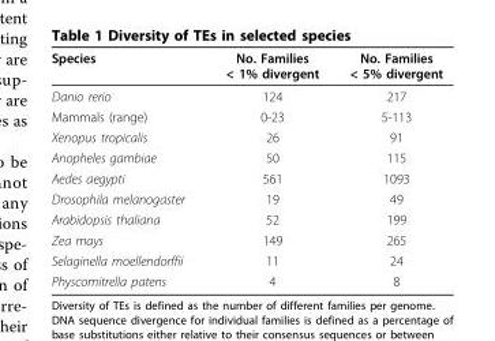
<table><thead><tr><td>Species</td><td>No. Families &lt; 1% divergent</td><td>No. Families &lt; 5% divergent</td></tr></thead><tbody><tr><td>Danio rerio</td><td>124</td><td>217</td></tr><tr><td>Mammals (range)</td><td>0-23</td><td>5-113</td></tr><tr><td>Xenopus tropicalis</td><td>26</td><td>91</td></tr><tr><td>Anopheles gambiae</td><td>50</td><td>115</td></tr><tr><td>Aedes aegypti</td><td>561</td><td>1093</td></tr><tr><td>Drosophila melanogaster</td><td>19</td><td>49</td></tr><tr><td>Arabidopsis thaliana</td><td>52</td><td>199</td></tr><tr><td>Zea mays</td><td>149</td><td>265</td></tr><tr><td>Selaginella moellendorffii</td><td>11</td><td>24</td></tr><tr><td>Physcomitrella patens</td><td>4</td><td>8</td></tr></tbody></table>